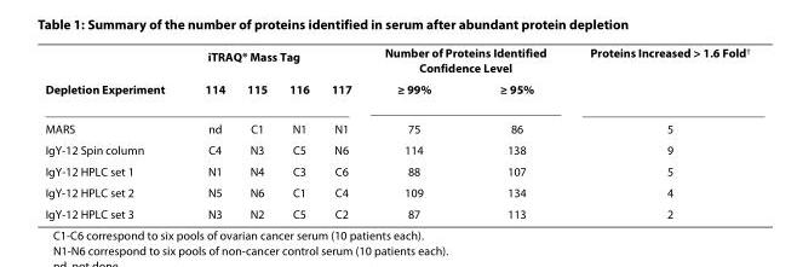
<table><thead><tr><td rowspan="2">Depletion Experiment</td><td colspan="4">iTRAQ<sup>®</sup> Mass Tag</td><td colspan="2">Number of Proteins Identified Confidence Level</td><td rowspan="2">Proteins Increased &gt; 1.6 Fold<sup>†</sup></td></tr><tr><td>114</td><td>115</td><td>116</td><td>117</td><td>≥ 99%</td><td>≥ 95%</td></tr></thead><tbody><tr><td>MARS</td><td>nd</td><td>C1</td><td>N1</td><td>N1</td><td>75</td><td>86</td><td>5</td></tr><tr><td>IgY-12 Spin column</td><td>C4</td><td>N3</td><td>C5</td><td>N6</td><td>114</td><td>138</td><td>9</td></tr><tr><td>IgY-12 HPLC set 1</td><td>N1</td><td>N4</td><td>C3</td><td>C6</td><td>88</td><td>107</td><td>5</td></tr><tr><td>IgY-12 HPLC set 2</td><td>N5</td><td>N6</td><td>C1</td><td>C4</td><td>109</td><td>134</td><td>4</td></tr><tr><td>IgY-12 HPLC set 3</td><td>N3</td><td>N2</td><td>C5</td><td>C2</td><td>87</td><td>113</td><td>2</td></tr></tbody></table>